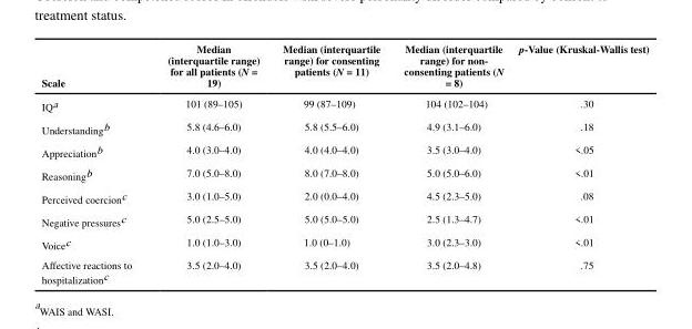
<table><thead><tr><td>Scale</td><td>Median (interquartile range) for all patients (N = 19)</td><td>Median (interquartile range) for consenting patients (N = 11)</td><td>Median (interquartile range) for non- consenting patients (N = 8)</td><td>p-Value (Kruskal-Wallis test)</td></tr></thead><tbody><tr><td>IQ<sup>a</sup></td><td>101 (89–105)</td><td>99 (87–109)</td><td>104 (102–104)</td><td>.30</td></tr><tr><td>Understanding<sup>b</sup></td><td>5.8 (4.6–6.0)</td><td>5.8 (5.5–6.0)</td><td>4.9 (3.1–6.0)</td><td>.18</td></tr><tr><td>Appreciation<sup>b</sup></td><td>4.0 (3.0–4.0)</td><td>4.0 (4.0–4.0)</td><td>3.5 (3.0–4.0)</td><td>&lt;.05</td></tr><tr><td>Reasoning<sup>b</sup></td><td>7.0 (5.0–8.0)</td><td>8.0 (7.0–8.0)</td><td>5.0 (5.0–6.0)</td><td>&lt;.01</td></tr><tr><td>Perceived coercion<sup>c</sup></td><td>3.0 (1.0–5.0)</td><td>2.0 (0.0–4.0)</td><td>4.5 (2.3–5.0)</td><td>.08</td></tr><tr><td>Negative pressures<sup>c</sup></td><td>5.0 (2.5–5.0)</td><td>5.0 (5.0–5.0)</td><td>2.5 (1.3–4.7)</td><td>&lt;.01</td></tr><tr><td>Voice<sup>c</sup></td><td>1.0 (1.0–3.0)</td><td>1.0 (0–1.0)</td><td>3.0 (2.3–3.0)</td><td>&lt;.01</td></tr><tr><td>Affective reactions to hospitalization<sup>c</sup></td><td>3.5 (2.0–4.0)</td><td>3.5 (2.0–4.0)</td><td>3.5 (2.0–4.8)</td><td>.75</td></tr></tbody></table>